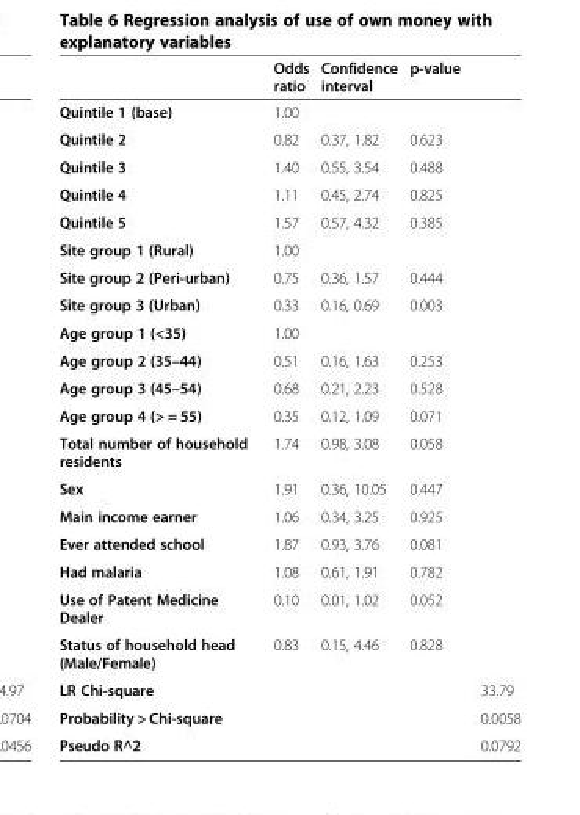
<table><thead><tr><td></td><td>Odds ratio</td><td>Confidence interval</td><td>p-value</td><td></td></tr></thead><tbody><tr><td>Quintile 1 (base)</td><td>1.00</td><td></td><td></td><td></td></tr><tr><td>Quintile 2</td><td>0.82</td><td>0.37, 1.82</td><td>0.623</td><td></td></tr><tr><td>Quintile 3</td><td>1.40</td><td>0.55, 3.54</td><td>0.488</td><td></td></tr><tr><td>Quintile 4</td><td>1.11</td><td>0.45, 2.74</td><td>0.825</td><td></td></tr><tr><td>Quintile 5</td><td>1.57</td><td>0.57, 4.32</td><td>0.385</td><td></td></tr><tr><td>Site group 1 (Rural)</td><td>1.00</td><td></td><td></td><td></td></tr><tr><td>Site group 2 (Peri-urban)</td><td>0.75</td><td>0.36, 1.57</td><td>0.444</td><td></td></tr><tr><td>Site group 3 (Urban)</td><td>0.33</td><td>0.16, 0.69</td><td>0.003</td><td></td></tr><tr><td>Age group 1 (&lt;35)</td><td>1.00</td><td></td><td></td><td></td></tr><tr><td>Age group 2 (35–44)</td><td>0.51</td><td>0.16, 1.63</td><td>0.253</td><td></td></tr><tr><td>Age group 3 (45–54)</td><td>0.68</td><td>0.21, 2.23</td><td>0.528</td><td></td></tr><tr><td>Age group 4 (&gt; = 55)</td><td>0.35</td><td>0.12, 1.09</td><td>0.071</td><td></td></tr><tr><td>Total number of household residents</td><td>1.74</td><td>0.98, 3.08</td><td>0.058</td><td></td></tr><tr><td>Sex</td><td>1.91</td><td>0.36, 10.05</td><td>0.447</td><td></td></tr><tr><td>Main income earner</td><td>1.06</td><td>0.34, 3.25</td><td>0.925</td><td></td></tr><tr><td>Ever attended school</td><td>1.87</td><td>0.93, 3.76</td><td>0.081</td><td></td></tr><tr><td>Had malaria</td><td>1.08</td><td>0.61, 1.91</td><td>0.782</td><td></td></tr><tr><td>Use of Patent Medicine Dealer</td><td>0.10</td><td>0.01, 1.02</td><td>0.052</td><td></td></tr><tr><td>Status of household head (Male/Female)</td><td>0.83</td><td>0.15, 4.46</td><td>0.828</td><td></td></tr><tr><td>LR Chi-square</td><td></td><td></td><td></td><td>33.79</td></tr><tr><td>Probability &gt; Chi-square</td><td></td><td></td><td></td><td>0.0058</td></tr><tr><td>Pseudo R^2</td><td></td><td></td><td></td><td>0.0792</td></tr></tbody></table>